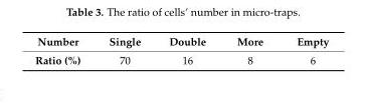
<table><thead><tr><td>Number</td><td>Single</td><td>Double</td><td>More</td><td>Empty</td></tr></thead><tbody><tr><td>Ratio (%)</td><td>70</td><td>16</td><td>8</td><td>6</td></tr></tbody></table>